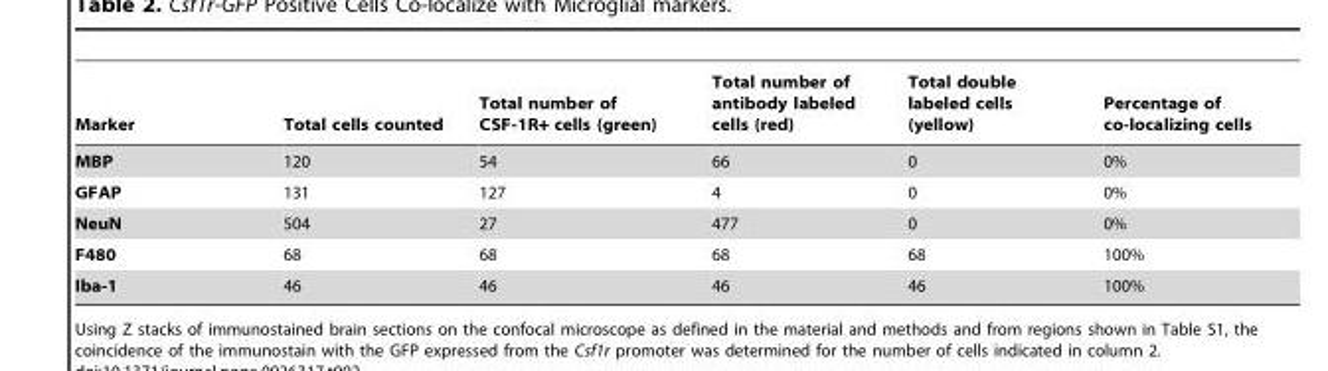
<table><thead><tr><td>Marker</td><td>Total cells counted</td><td>Total number of CSF-1R+ cells (green)</td><td>Total number of antibody labeled cells (red)</td><td>Total double labeled cells (yellow)</td><td>Percentage of co-localizing cells</td></tr></thead><tbody><tr><td>MBP</td><td>120</td><td>54</td><td>66</td><td>0</td><td>0%</td></tr><tr><td>GFAP</td><td>131</td><td>127</td><td>4</td><td>0</td><td>0%</td></tr><tr><td>NeuN</td><td>504</td><td>27</td><td>477</td><td>0</td><td>0%</td></tr><tr><td>F480</td><td>68</td><td>68</td><td>68</td><td>68</td><td>100%</td></tr><tr><td>Iba-1</td><td>46</td><td>46</td><td>46</td><td>46</td><td>100%</td></tr></tbody></table>